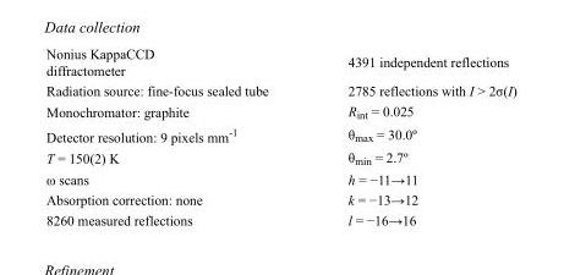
<table><tbody><tr><td>Nonius KappaCCD diffractometer</td><td>4391 independent reflections</td></tr><tr><td>Radiation source: fine-focus sealed tube</td><td>2785 reflections with I &gt; 2σ(I)</td></tr><tr><td>Monochromator: graphite</td><td>R<sub>int</sub> = 0.025</td></tr><tr><td>Detector resolution: 9 pixels mm<sup>-1</sup></td><td>θ<sub>max</sub> = 30.0º</td></tr><tr><td>T = 150(2) K</td><td>θ<sub>min</sub> = 2.7º</td></tr><tr><td>ω scans</td><td>h = −11→11</td></tr><tr><td>Absorption correction: none</td><td>k = −13→12</td></tr><tr><td>8260 measured reflections</td><td>l = −16→16</td></tr></tbody></table>